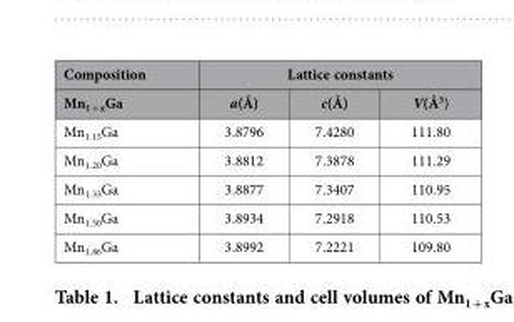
<table><thead><tr><td rowspan="2">Composition Mn<sub>1 + x</sub>Ga</td><td colspan="3">Lattice constants</td></tr><tr><td>a(Å)</td><td>c(Å)</td><td>V(Å<sup>3</sup>)</td></tr></thead><tbody><tr><td>Mn<sub>1.15</sub>Ga</td><td>3.8796</td><td>7.4280</td><td>111.80</td></tr><tr><td>Mn<sub>1.20</sub>Ga</td><td>3.8812</td><td>7.3878</td><td>111.29</td></tr><tr><td>Mn<sub>1.33</sub>Ga</td><td>3.8877</td><td>7.3407</td><td>110.95</td></tr><tr><td>Mn<sub>1.50</sub>Ga</td><td>3.8934</td><td>7.2918</td><td>110.53</td></tr><tr><td>Mn<sub>1.86</sub>Ga</td><td>3.8992</td><td>7.2221</td><td>109.80</td></tr></tbody></table>